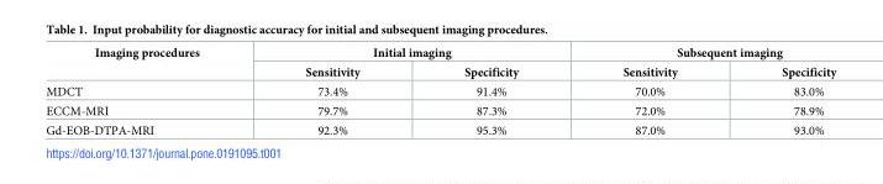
<table><thead><tr><td rowspan="2">Imaging procedures</td><td colspan="2">Initial imaging</td><td colspan="2">Subsequent imaging</td></tr><tr><td>Sensitivity</td><td>Specificity</td><td>Sensitivity</td><td>Specificity</td></tr></thead><tbody><tr><td>MDCT</td><td>73.4%</td><td>91.4%</td><td>70.0%</td><td>83.0%</td></tr><tr><td>ECCM-MRI</td><td>79.7%</td><td>87.3%</td><td>72.0%</td><td>78.9%</td></tr><tr><td>Gd-EOB-DTPA-MRI</td><td>92.3%</td><td>95.3%</td><td>87.0%</td><td>93.0%</td></tr></tbody></table>